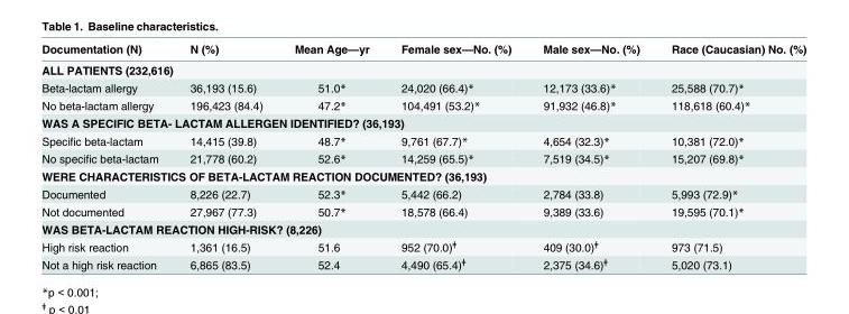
<table><thead><tr><td>Documentation (N)</td><td>N (%)</td><td>Mean Age—yr</td><td>Female sex—No. (%)</td><td>Male sex—No. (%)</td><td>Race (Caucasian) No. (%)</td></tr></thead><tbody><tr><td colspan="6">ALL PATIENTS (232,616)</td></tr><tr><td>Beta-lactam allergy</td><td>36,193 (15.6)</td><td>51.0*</td><td>24,020 (66.4)*</td><td>12,173 (33.6)*</td><td>25,588 (70.7)*</td></tr><tr><td>No beta-lactam allergy</td><td>196,423 (84.4)</td><td>47.2*</td><td>104,491 (53.2)*</td><td>91,932 (46.8)*</td><td>118,618 (60.4)*</td></tr><tr><td colspan="6">WAS A SPECIFIC BETA- LACTAM ALLERGEN IDENTIFIED? (36,193)</td></tr><tr><td>Specific beta-lactam</td><td>14,415 (39.8)</td><td>48.7*</td><td>9,761 (67.7)*</td><td>4,654 (32.3)*</td><td>10,381 (72.0)*</td></tr><tr><td>No specific beta-lactam</td><td>21,778 (60.2)</td><td>52.6*</td><td>14,259 (65.5)*</td><td>7,519 (34.5)*</td><td>15,207 (69.8)*</td></tr><tr><td colspan="6">WERE CHARACTERISTICS OF BETA-LACTAM REACTION DOCUMENTED? (36,193)</td></tr><tr><td>Documented</td><td>8,226 (22.7)</td><td>52.3*</td><td>5,442 (66.2)</td><td>2,784 (33.8)</td><td>5,993 (72.9)*</td></tr><tr><td>Not documented</td><td>27,967 (77.3)</td><td>50.7*</td><td>18,578 (66.4)</td><td>9,389 (33.6)</td><td>19,595 (70.1)*</td></tr><tr><td colspan="6">WAS BETA-LACTAM REACTION HIGH-RISK? (8,226)</td></tr><tr><td>High risk reaction</td><td>1,361 (16.5)</td><td>51.6</td><td>952 (70.0)<sup>ǂ</sup></td><td>409 (30.0)<sup>ǂ</sup></td><td>973 (71.5)</td></tr><tr><td>Not a high risk reaction</td><td>6,865 (83.5)</td><td>52.4</td><td>4,490 (65.4)<sup>ǂ</sup></td><td>2,375 (34.6)<sup>ǂ</sup></td><td>5,020 (73.1)</td></tr></tbody></table>